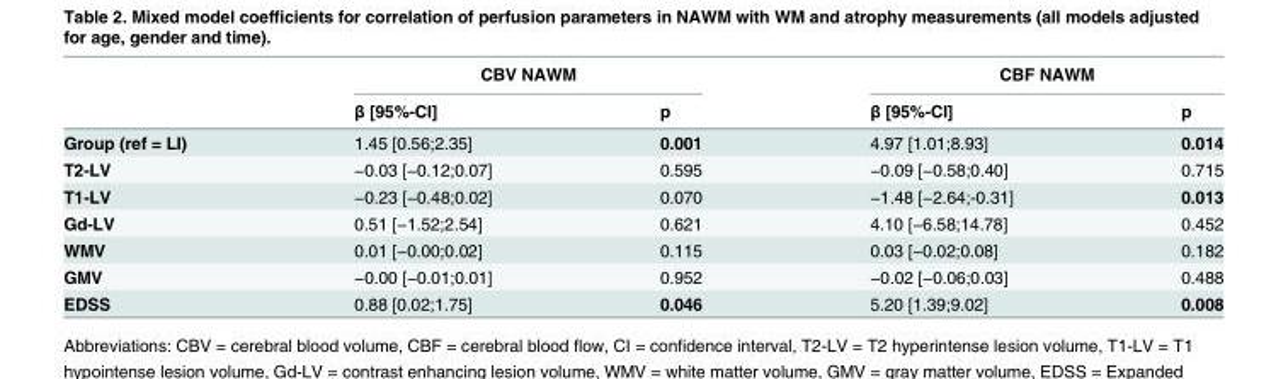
<table><thead><tr><td rowspan="2"></td><td colspan="2">CBV NAWM</td><td colspan="2">CBF NAWM</td></tr><tr><td>β [95%-CI]</td><td>p</td><td>β [95%-CI]</td><td>p</td></tr></thead><tbody><tr><td>Group (ref = LI)</td><td>1.45 [0.56;2.35]</td><td>0.001</td><td>4.97 [1.01;8.93]</td><td>0.014</td></tr><tr><td>T2-LV</td><td>−0.03 [−0.12;0.07]</td><td>0.595</td><td>−0.09 [−0.58;0.40]</td><td>0.715</td></tr><tr><td>T1-LV</td><td>−0.23 [−0.48;0.02]</td><td>0.070</td><td>−1.48 [−2.64;-0.31]</td><td>0.013</td></tr><tr><td>Gd-LV</td><td>0.51 [−1.52;2.54]</td><td>0.621</td><td>4.10 [−6.58;14.78]</td><td>0.452</td></tr><tr><td>WMV</td><td>0.01 [−0.00;0.02]</td><td>0.115</td><td>0.03 [−0.02;0.08]</td><td>0.182</td></tr><tr><td>GMV</td><td>−0.00 [−0.01;0.01]</td><td>0.952</td><td>−0.02 [−0.06;0.03]</td><td>0.488</td></tr><tr><td>EDSS</td><td>0.88 [0.02;1.75]</td><td>0.046</td><td>5.20 [1.39;9.02]</td><td>0.008</td></tr></tbody></table>